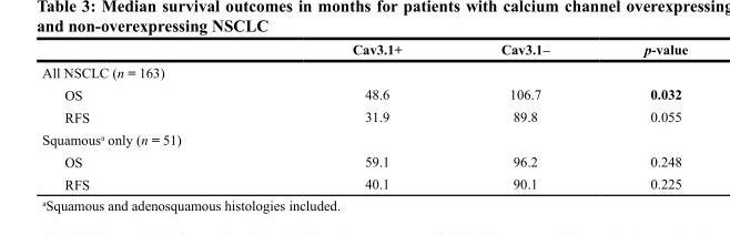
<table><thead><tr><td></td><td>Cav3.1+</td><td>Cav3.1–</td><td>p-value</td></tr></thead><tbody><tr><td colspan="4">All NSCLC (n = 163)</td></tr><tr><td>OS</td><td>48.6</td><td>106.7</td><td>0.032</td></tr><tr><td>RFS</td><td>31.9</td><td>89.8</td><td>0.055</td></tr><tr><td colspan="4">Squamous<sup>a</sup> only (n = 51)</td></tr><tr><td>OS</td><td>59.1</td><td>96.2</td><td>0.248</td></tr><tr><td>RFS</td><td>40.1</td><td>90.1</td><td>0.225</td></tr></tbody></table>